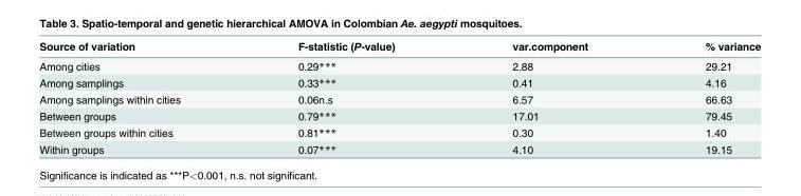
<table><thead><tr><td>Source of variation</td><td>F-statistic (P-value)</td><td>var.component</td><td>% variance</td></tr></thead><tbody><tr><td>Among cities</td><td>0.29***</td><td>2.88</td><td>29.21</td></tr><tr><td>Among samplings</td><td>0.33***</td><td>0.41</td><td>4.16</td></tr><tr><td>Among samplings within cities</td><td>0.06n.s</td><td>6.57</td><td>66.63</td></tr><tr><td>Between groups</td><td>0.79***</td><td>17.01</td><td>79.45</td></tr><tr><td>Between groups within cities</td><td>0.81***</td><td>0.30</td><td>1.40</td></tr><tr><td>Within groups</td><td>0.07***</td><td>4.10</td><td>19.15</td></tr></tbody></table>